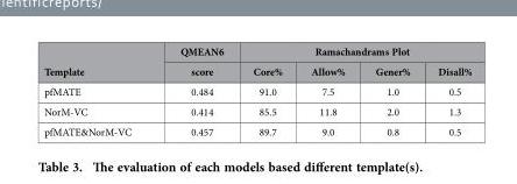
<table><thead><tr><td rowspan="2">Template</td><td rowspan="2">QMEAN6 score</td><td colspan="4">Ramachandrams Plot</td></tr><tr><td>Core%</td><td>Allow%</td><td>Gener%</td><td>Disall%</td></tr></thead><tbody><tr><td>pfMATE</td><td>0.484</td><td>91.0</td><td>7.5</td><td>1.0</td><td>0.5</td></tr><tr><td>NorM-VC</td><td>0.414</td><td>85.5</td><td>11.8</td><td>2.0</td><td>1.3</td></tr><tr><td>pfMATE&amp;NorM-VC</td><td>0.457</td><td>89.7</td><td>9.0</td><td>0.8</td><td>0.5</td></tr></tbody></table>